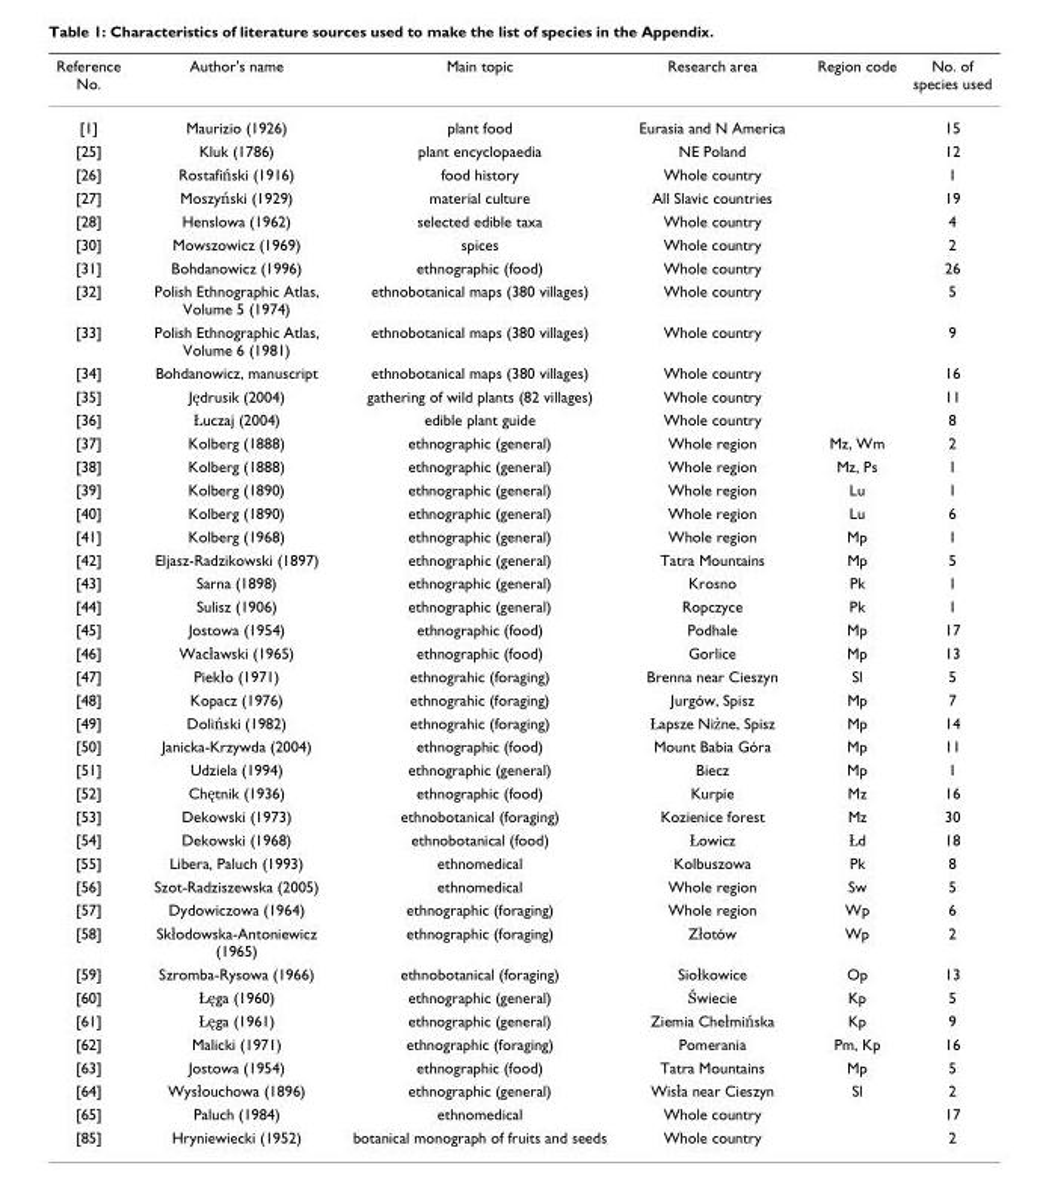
<table><thead><tr><td>Reference No.</td><td>Author&#x27;s name</td><td>Main topic</td><td>Research area</td><td>Region code</td><td>No. of species used</td></tr></thead><tbody><tr><td>[1]</td><td>Maurizio (1926)</td><td>plant food</td><td>Eurasia and N America</td><td></td><td>15</td></tr><tr><td>[25]</td><td>Kluk (1786)</td><td>plant encyclopaedia</td><td>NE Poland</td><td></td><td>12</td></tr><tr><td>[26]</td><td>Rostafiński (1916)</td><td>food history</td><td>Whole country</td><td></td><td>1</td></tr><tr><td>[27]</td><td>Moszyński (1929)</td><td>material culture</td><td>All Slavic countries</td><td></td><td>19</td></tr><tr><td>[28]</td><td>Henslowa (1962)</td><td>selected edible taxa</td><td>Whole country</td><td></td><td>4</td></tr><tr><td>[30]</td><td>Mowszowicz (1969)</td><td>spices</td><td>Whole country</td><td></td><td>2</td></tr><tr><td>[31]</td><td>Bohdanowicz (1996)</td><td>ethnographic (food)</td><td>Whole country</td><td></td><td>26</td></tr><tr><td>[32]</td><td>Polish Ethnographic Atlas, Volume 5 (1974)</td><td>ethnobotanical maps (380 villages)</td><td>Whole country</td><td></td><td>5</td></tr><tr><td>[33]</td><td>Polish Ethnographic Atlas, Volume 6 (1981)</td><td>ethnobotanical maps (380 villages)</td><td>Whole country</td><td></td><td>9</td></tr><tr><td>[34]</td><td>Bohdanowicz, manuscript</td><td>ethnobotanical maps (380 villages)</td><td>Whole country</td><td></td><td>16</td></tr><tr><td>[35]</td><td>Jędrusik (2004)</td><td>gathering of wild plants (82 villages)</td><td>Whole country</td><td></td><td>11</td></tr><tr><td>[36]</td><td>Łuczaj (2004)</td><td>edible plant guide</td><td>Whole country</td><td></td><td>8</td></tr><tr><td>[37]</td><td>Kolberg (1888)</td><td>ethnographic (general)</td><td>Whole region</td><td>Mz, Wm</td><td>2</td></tr><tr><td>[38]</td><td>Kolberg (1888)</td><td>ethnographic (general)</td><td>Whole region</td><td>Mz, Ps</td><td>1</td></tr><tr><td>[39]</td><td>Kolberg (1890)</td><td>ethnographic (general)</td><td>Whole region</td><td>Lu</td><td>1</td></tr><tr><td>[40]</td><td>Kolberg (1890)</td><td>ethnographic (general)</td><td>Whole region</td><td>Lu</td><td>6</td></tr><tr><td>[41]</td><td>Kolberg (1968)</td><td>ethnographic (general)</td><td>Whole region</td><td>Mp</td><td>1</td></tr><tr><td>[42]</td><td>Eljasz-Radzikowski (1897)</td><td>ethnographic (general)</td><td>Tatra Mountains</td><td>Mp</td><td>5</td></tr><tr><td>[43]</td><td>Sarna (1898)</td><td>ethnographic (general)</td><td>Krosno</td><td>Pk</td><td>1</td></tr><tr><td>[44]</td><td>Sulisz (1906)</td><td>ethnographic (general)</td><td>Ropczyce</td><td>Pk</td><td>1</td></tr><tr><td>[45]</td><td>Jostowa (1954)</td><td>ethnographic (food)</td><td>Podhale</td><td>Mp</td><td>17</td></tr><tr><td>[46]</td><td>Wacławski (1965)</td><td>ethnographic (food)</td><td>Gorlice</td><td>Mp</td><td>13</td></tr><tr><td>[47]</td><td>Piekło (1971)</td><td>ethnograhic (foraging)</td><td>Brenna near Cieszyn</td><td>Sl</td><td>5</td></tr><tr><td>[48]</td><td>Kopacz (1976)</td><td>ethnograhic (foraging)</td><td>Jurgów, Spisz</td><td>Mp</td><td>7</td></tr><tr><td>[49]</td><td>Doliński (1982)</td><td>ethnograhic (foraging)</td><td>Łapsze Niżne, Spisz</td><td>Mp</td><td>14</td></tr><tr><td>[50]</td><td>Janicka-Krzywda (2004)</td><td>ethnographic (food)</td><td>Mount Babia Góra</td><td>Mp</td><td>11</td></tr><tr><td>[51]</td><td>Udziela (1994)</td><td>ethnographic (general)</td><td>Biecz</td><td>Mp</td><td>1</td></tr><tr><td>[52]</td><td>Chętnik (1936)</td><td>ethnographic (food)</td><td>Kurpie</td><td>Mz</td><td>16</td></tr><tr><td>[53]</td><td>Dekowski (1973)</td><td>ethnobotanical (foraging)</td><td>Kozienice forest</td><td>Mz</td><td>30</td></tr><tr><td>[54]</td><td>Dekowski (1968)</td><td>ethnobotanical (food)</td><td>Łowicz</td><td>Łd</td><td>18</td></tr><tr><td>[55]</td><td>Libera, Paluch (1993)</td><td>ethnomedical</td><td>Kolbuszowa</td><td>Pk</td><td>8</td></tr><tr><td>[56]</td><td>Szot-Radziszewska (2005)</td><td>ethnomedical</td><td>Whole region</td><td>Sw</td><td>5</td></tr><tr><td>[57]</td><td>Dydowiczowa (1964)</td><td>ethnographic (foraging)</td><td>Whole region</td><td>Wp</td><td>6</td></tr><tr><td>[58]</td><td>Skłodowska-Antoniewicz (1965)</td><td>ethnographic (foraging)</td><td>Złotów</td><td>Wp</td><td>2</td></tr><tr><td>[59]</td><td>Szromba-Rysowa (1966)</td><td>ethnobotanical (foraging)</td><td>Siołkowice</td><td>Op</td><td>13</td></tr><tr><td>[60]</td><td>Łęga (1960)</td><td>ethnographic (general)</td><td>Świecie</td><td>Kp</td><td>5</td></tr><tr><td>[61]</td><td>Łęga (1961)</td><td>ethnographic (general)</td><td>Ziemia Chełmińska</td><td>Kp</td><td>9</td></tr><tr><td>[62]</td><td>Malicki (1971)</td><td>ethnographic (foraging)</td><td>Pomerania</td><td>Pm, Kp</td><td>16</td></tr><tr><td>[63]</td><td>Jostowa (1954)</td><td>ethnographic (food)</td><td>Tatra Mountains</td><td>Mp</td><td>5</td></tr><tr><td>[64]</td><td>Wysłouchowa (1896)</td><td>ethnographic (general)</td><td>Wisła near Cieszyn</td><td>Sl</td><td>2</td></tr><tr><td>[65]</td><td>Paluch (1984)</td><td>ethnomedical</td><td>Whole country</td><td></td><td>17</td></tr><tr><td>[85]</td><td>Hryniewiecki (1952)</td><td>botanical monograph of fruits and seeds</td><td>Whole country</td><td></td><td>2</td></tr></tbody></table>